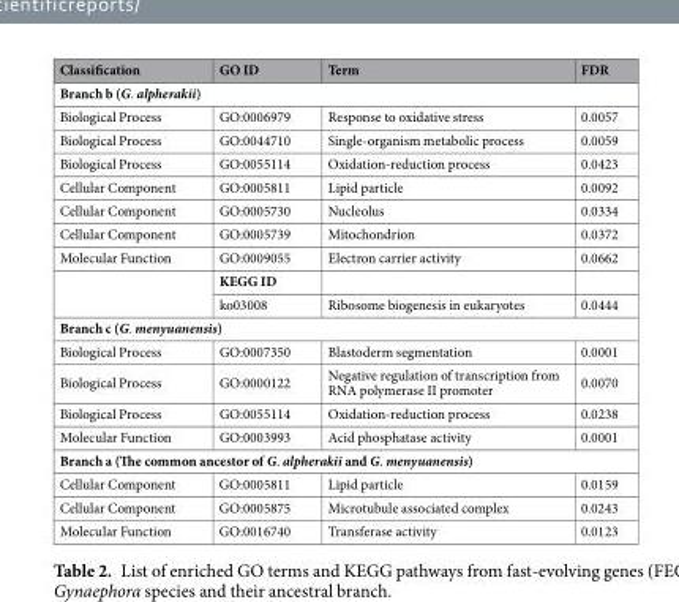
<table><thead><tr><td>Classification</td><td>GO ID</td><td>Term</td><td>FDR</td></tr></thead><tbody><tr><td colspan="4">Branch b (G. alpherakii)</td></tr><tr><td>Biological Process</td><td>GO:0006979</td><td>Response to oxidative stress</td><td>0.0057</td></tr><tr><td>Biological Process</td><td>GO:0044710</td><td>Single-organism metabolic process</td><td>0.0059</td></tr><tr><td>Biological Process</td><td>GO:0055114</td><td>Oxidation-reduction process</td><td>0.0423</td></tr><tr><td>Cellular Component</td><td>GO:0005811</td><td>Lipid particle</td><td>0.0092</td></tr><tr><td>Cellular Component</td><td>GO:0005730</td><td>Nucleolus</td><td>0.0334</td></tr><tr><td>Cellular Component</td><td>GO:0005739</td><td>Mitochondrion</td><td>0.0372</td></tr><tr><td rowspan="3">Molecular Function</td><td>GO:0009055</td><td>Electron carrier activity</td><td>0.0662</td></tr><tr><td>KEGG ID</td><td></td><td></td></tr><tr><td>ko03008</td><td>Ribosome biogenesis in eukaryotes</td><td>0.0444</td></tr><tr><td colspan="4">Branch c (G. menyuanensis)</td></tr><tr><td>Biological Process</td><td>GO:0007350</td><td>Blastoderm segmentation</td><td>0.0001</td></tr><tr><td>Biological Process</td><td>GO:0000122</td><td>Negative regulation of transcription from RNA polymerase II promoter</td><td>0.0070</td></tr><tr><td>Biological Process</td><td>GO:0055114</td><td>Oxidation-reduction process</td><td>0.0238</td></tr><tr><td>Molecular Function</td><td>GO:0003993</td><td>Acid phosphatase activity</td><td>0.0001</td></tr><tr><td colspan="4">Branch a (The common ancestor of G. alpherakii and G. menyuanensis)</td></tr><tr><td>Cellular Component</td><td>GO:0005811</td><td>Lipid particle</td><td>0.0159</td></tr><tr><td>Cellular Component</td><td>GO:0005875</td><td>Microtubule associated complex</td><td>0.0243</td></tr><tr><td>Molecular Function</td><td>GO:0016740</td><td>Transferase activity</td><td>0.0123</td></tr></tbody></table>